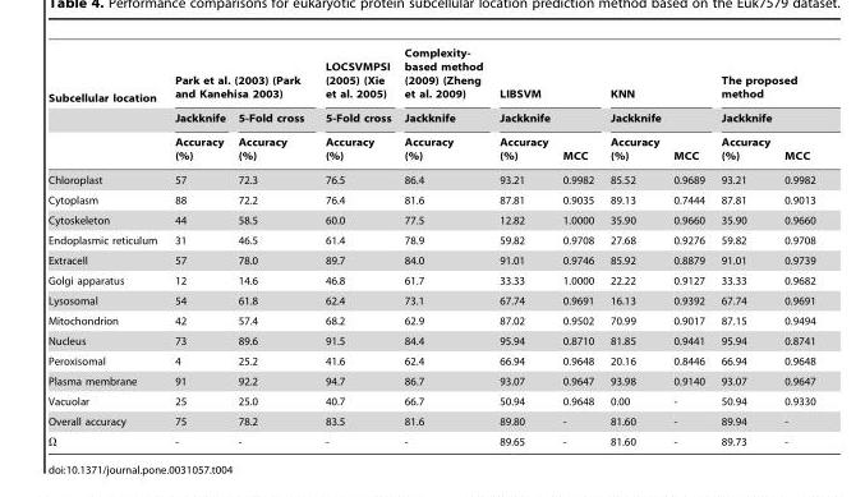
<table><thead><tr><td rowspan="3">Subcellular location</td><td colspan="2">Park et al. (2003) (Park and Kanehisa 2003)</td><td rowspan="3">LOCSVMPSI (2005) (Xie et al. 2005) 5-Fold cross Accuracy (%)</td><td rowspan="3">Complexity- based method (2009) (Zheng et al. 2009) Jackknife Accuracy (%)</td><td rowspan="2" colspan="2">LIBSVM Jackknife</td><td rowspan="2" colspan="2">KNN Jackknife</td><td rowspan="2" colspan="2">The proposed method Jackknife</td></tr><tr><td rowspan="2">Jackknife Accuracy (%)</td><td rowspan="2">5-Fold cross Accuracy (%)</td></tr><tr><td>Accuracy (%)</td><td>MCC</td><td>Accuracy (%)</td><td>MCC</td><td>Accuracy (%)</td><td>MCC</td></tr></thead><tbody><tr><td>Chloroplast</td><td>57</td><td>72.3</td><td>76.5</td><td>86.4</td><td>93.21</td><td>0.9982</td><td>85.52</td><td>0.9689</td><td>93.21</td><td>0.9982</td></tr><tr><td>Cytoplasm</td><td>88</td><td>72.2</td><td>76.4</td><td>81.6</td><td>87.81</td><td>0.9035</td><td>89.13</td><td>0.7444</td><td>87.81</td><td>0.9013</td></tr><tr><td>Cytoskeleton</td><td>44</td><td>58.5</td><td>60.0</td><td>77.5</td><td>12.82</td><td>1.0000</td><td>35.90</td><td>0.9660</td><td>35.90</td><td>0.9660</td></tr><tr><td>Endoplasmic reticulum</td><td>31</td><td>46.5</td><td>61.4</td><td>78.9</td><td>59.82</td><td>0.9708</td><td>27.68</td><td>0.9276</td><td>59.82</td><td>0.9708</td></tr><tr><td>Extracell</td><td>57</td><td>78.0</td><td>89.7</td><td>84.0</td><td>91.01</td><td>0.9746</td><td>85.92</td><td>0.8879</td><td>91.01</td><td>0.9739</td></tr><tr><td>Golgi apparatus</td><td>12</td><td>14.6</td><td>46.8</td><td>61.7</td><td>33.33</td><td>1.0000</td><td>22.22</td><td>0.9127</td><td>33.33</td><td>0.9682</td></tr><tr><td>Lysosomal</td><td>54</td><td>61.8</td><td>62.4</td><td>73.1</td><td>67.74</td><td>0.9691</td><td>16.13</td><td>0.9392</td><td>67.74</td><td>0.9691</td></tr><tr><td>Mitochondrion</td><td>42</td><td>57.4</td><td>68.2</td><td>62.9</td><td>87.02</td><td>0.9502</td><td>70.99</td><td>0.9017</td><td>87.15</td><td>0.9494</td></tr><tr><td>Nucleus</td><td>73</td><td>89.6</td><td>91.5</td><td>84.4</td><td>95.94</td><td>0.8710</td><td>81.85</td><td>0.9441</td><td>95.94</td><td>0.8741</td></tr><tr><td>Peroxisomal</td><td>4</td><td>25.2</td><td>41.6</td><td>62.4</td><td>66.94</td><td>0.9648</td><td>20.16</td><td>0.8446</td><td>66.94</td><td>0.9648</td></tr><tr><td>Plasma membrane</td><td>91</td><td>92.2</td><td>94.7</td><td>86.7</td><td>93.07</td><td>0.9647</td><td>93.98</td><td>0.9140</td><td>93.07</td><td>0.9647</td></tr><tr><td>Vacuolar</td><td>25</td><td>25.0</td><td>40.7</td><td>66.7</td><td>50.94</td><td>0.9648</td><td>0.00</td><td>-</td><td>50.94</td><td>0.9330</td></tr><tr><td rowspan="2">Overall accuracy V</td><td>75</td><td>78.2</td><td>83.5</td><td>81.6</td><td>89.80</td><td>-</td><td>81.60</td><td>-</td><td>89.94</td><td>-</td></tr><tr><td>-</td><td>-</td><td>-</td><td>-</td><td>89.65</td><td>-</td><td>81.60</td><td>-</td><td>89.73</td><td>-</td></tr></tbody></table>